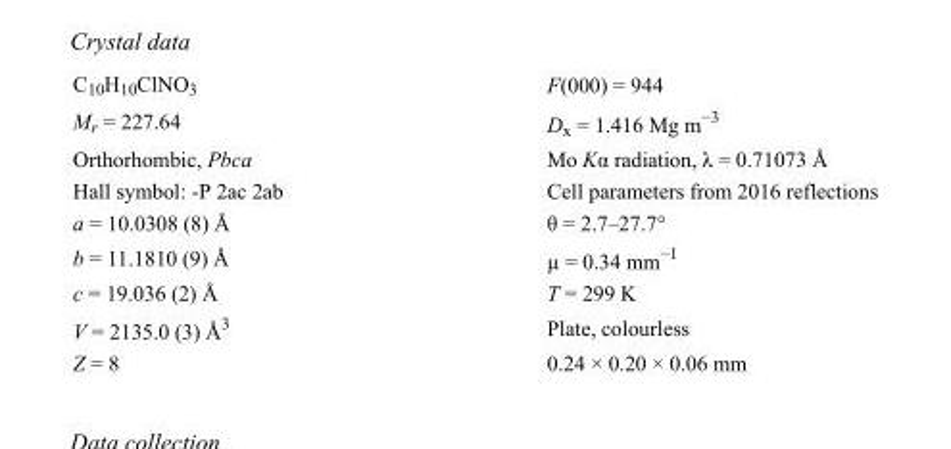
<table><tbody><tr><td>C<sub>10</sub>H<sub>10</sub>ClNO<sub>3</sub></td><td>F(000) = 944</td></tr><tr><td>M<sub>r</sub> = 227.64</td><td>D<sub>x</sub> = 1.416 Mg m<sup>−3</sup></td></tr><tr><td>Orthorhombic, Pbca</td><td>Mo Kα radiation, λ = 0.71073 Å</td></tr><tr><td>Hall symbol: -P 2ac 2ab</td><td>Cell parameters from 2016 reflections</td></tr><tr><td>a = 10.0308 (8) Å</td><td>θ = 2.7–27.7°</td></tr><tr><td>b = 11.1810 (9) Å</td><td>µ = 0.34 mm<sup>−1</sup></td></tr><tr><td>c = 19.036 (2) Å</td><td>T = 299 K</td></tr><tr><td>V = 2135.0 (3) Å<sup>3</sup></td><td>Plate, colourless</td></tr><tr><td>Z = 8</td><td>0.24 × 0.20 × 0.06 mm</td></tr></tbody></table>